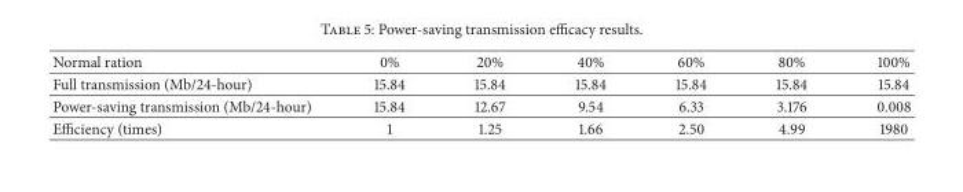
<table><thead><tr><td>Normal ration</td><td>0%</td><td>20%</td><td>40%</td><td>60%</td><td>80%</td><td>100%</td></tr></thead><tbody><tr><td>Full transmission (Mb/24-hour)</td><td>15.84</td><td>15.84</td><td>15.84</td><td>15.84</td><td>15.84</td><td>15.84</td></tr><tr><td>Power-saving transmission (Mb/24-hour)</td><td>15.84</td><td>12.67</td><td>9.54</td><td>6.33</td><td>3.176</td><td>0.008</td></tr><tr><td>Efficiency (times)</td><td>1</td><td>1.25</td><td>1.66</td><td>2.50</td><td>4.99</td><td>1980</td></tr></tbody></table>